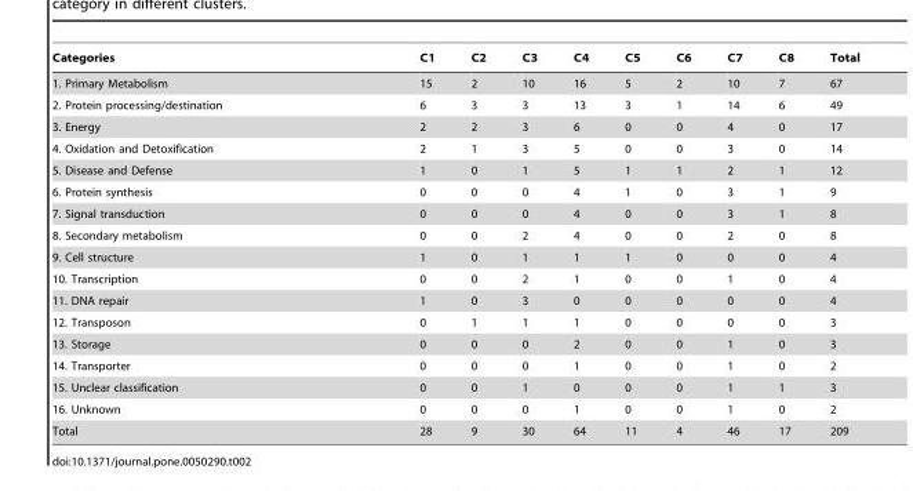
<table><thead><tr><td>Categories</td><td>C1</td><td>C2</td><td>C3</td><td>C4</td><td>C5</td><td>C6</td><td>C7</td><td>C8</td><td>Total</td></tr></thead><tbody><tr><td>1. Primary Metabolism</td><td>15</td><td>2</td><td>10</td><td>16</td><td>5</td><td>2</td><td>10</td><td>7</td><td>67</td></tr><tr><td>2. Protein processing/destination</td><td>6</td><td>3</td><td>3</td><td>13</td><td>3</td><td>1</td><td>14</td><td>6</td><td>49</td></tr><tr><td>3. Energy</td><td>2</td><td>2</td><td>3</td><td>6</td><td>0</td><td>0</td><td>4</td><td>0</td><td>17</td></tr><tr><td>4. Oxidation and Detoxification</td><td>2</td><td>1</td><td>3</td><td>5</td><td>0</td><td>0</td><td>3</td><td>0</td><td>14</td></tr><tr><td>5. Disease and Defense</td><td>1</td><td>0</td><td>1</td><td>5</td><td>1</td><td>1</td><td>2</td><td>1</td><td>12</td></tr><tr><td>6. Protein synthesis</td><td>0</td><td>0</td><td>0</td><td>4</td><td>1</td><td>0</td><td>3</td><td>1</td><td>9</td></tr><tr><td>7. Signal transduction</td><td>0</td><td>0</td><td>0</td><td>4</td><td>0</td><td>0</td><td>3</td><td>1</td><td>8</td></tr><tr><td>8. Secondary metabolism</td><td>0</td><td>0</td><td>2</td><td>4</td><td>0</td><td>0</td><td>2</td><td>0</td><td>8</td></tr><tr><td>9. Cell structure</td><td>1</td><td>0</td><td>1</td><td>1</td><td>1</td><td>0</td><td>0</td><td>0</td><td>4</td></tr><tr><td>10. Transcription</td><td>0</td><td>0</td><td>2</td><td>1</td><td>0</td><td>0</td><td>1</td><td>0</td><td>4</td></tr><tr><td>11. DNA repair</td><td>1</td><td>0</td><td>3</td><td>0</td><td>0</td><td>0</td><td>0</td><td>0</td><td>4</td></tr><tr><td>12. Transposon</td><td>0</td><td>1</td><td>1</td><td>1</td><td>0</td><td>0</td><td>0</td><td>0</td><td>3</td></tr><tr><td>13. Storage</td><td>0</td><td>0</td><td>0</td><td>2</td><td>0</td><td>0</td><td>1</td><td>0</td><td>3</td></tr><tr><td>14. Transporter</td><td>0</td><td>0</td><td>0</td><td>1</td><td>0</td><td>0</td><td>1</td><td>0</td><td>2</td></tr><tr><td>15. Unclear classification</td><td>0</td><td>0</td><td>1</td><td>0</td><td>0</td><td>0</td><td>1</td><td>1</td><td>3</td></tr><tr><td>16. Unknown</td><td>0</td><td>0</td><td>0</td><td>1</td><td>0</td><td>0</td><td>1</td><td>0</td><td>2</td></tr><tr><td>Total</td><td>28</td><td>9</td><td>30</td><td>64</td><td>11</td><td>4</td><td>46</td><td>17</td><td>209</td></tr></tbody></table>